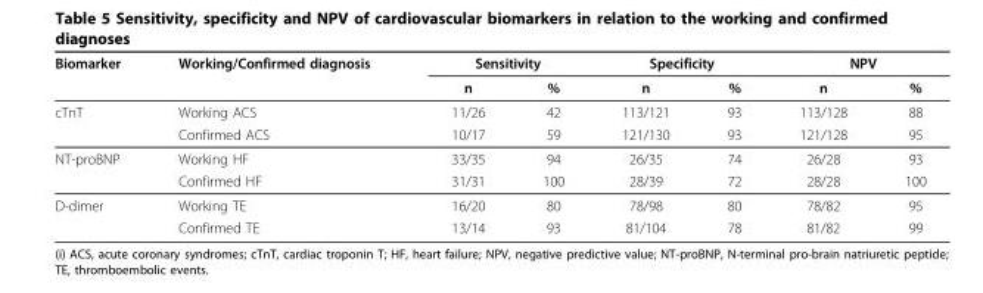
<table><thead><tr><td rowspan="2">Biomarker</td><td rowspan="2">Working/Confirmed diagnosis</td><td colspan="2">Sensitivity</td><td colspan="2">Specificity</td><td colspan="2">NPV</td></tr><tr><td>n</td><td>%</td><td>n</td><td>%</td><td>n</td><td>%</td></tr></thead><tbody><tr><td rowspan="2">cTnT</td><td>Working ACS</td><td>11/26</td><td>42</td><td>113/121</td><td>93</td><td>113/128</td><td>88</td></tr><tr><td>Confirmed ACS</td><td>10/17</td><td>59</td><td>121/130</td><td>93</td><td>121/128</td><td>95</td></tr><tr><td rowspan="2">NT-proBNP</td><td>Working HF</td><td>33/35</td><td>94</td><td>26/35</td><td>74</td><td>26/28</td><td>93</td></tr><tr><td>Confirmed HF</td><td>31/31</td><td>100</td><td>28/39</td><td>72</td><td>28/28</td><td>100</td></tr><tr><td rowspan="2">D-dimer</td><td>Working TE</td><td>16/20</td><td>80</td><td>78/98</td><td>80</td><td>78/82</td><td>95</td></tr><tr><td>Confirmed TE</td><td>13/14</td><td>93</td><td>81/104</td><td>78</td><td>81/82</td><td>99</td></tr></tbody></table>